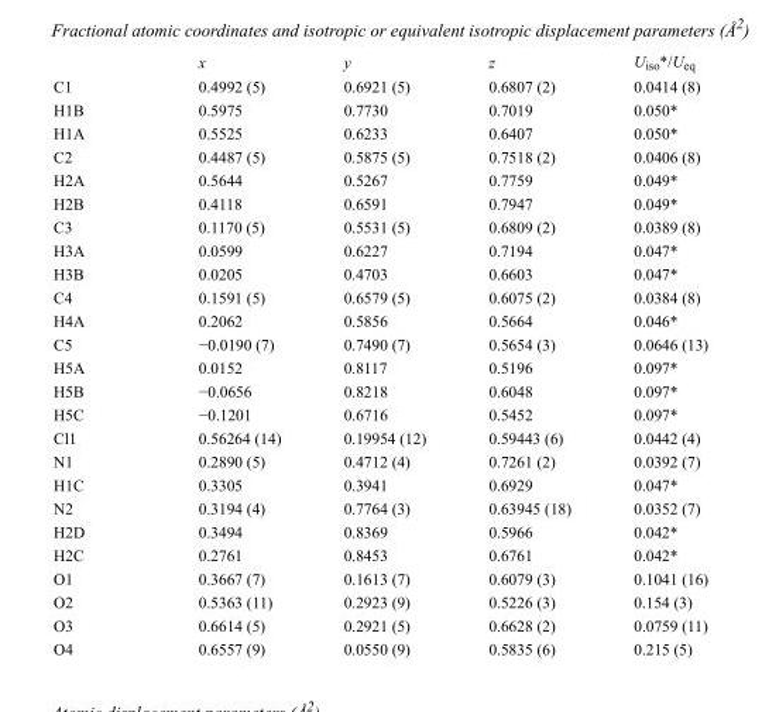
<table><thead><tr><td></td><td>x</td><td>y</td><td>z</td><td>U<sub>iso</sub>*/U<sub>eq</sub></td></tr></thead><tbody><tr><td>C1</td><td>0.4992 (5)</td><td>0.6921 (5)</td><td>0.6807 (2)</td><td>0.0414 (8)</td></tr><tr><td>H1B</td><td>0.5975</td><td>0.7730</td><td>0.7019</td><td>0.050*</td></tr><tr><td>H1A</td><td>0.5525</td><td>0.6233</td><td>0.6407</td><td>0.050*</td></tr><tr><td>C2</td><td>0.4487 (5)</td><td>0.5875 (5)</td><td>0.7518 (2)</td><td>0.0406 (8)</td></tr><tr><td>H2A</td><td>0.5644</td><td>0.5267</td><td>0.7759</td><td>0.049*</td></tr><tr><td>H2B</td><td>0.4118</td><td>0.6591</td><td>0.7947</td><td>0.049*</td></tr><tr><td>C3</td><td>0.1170 (5)</td><td>0.5531 (5)</td><td>0.6809 (2)</td><td>0.0389 (8)</td></tr><tr><td>H3A</td><td>0.0599</td><td>0.6227</td><td>0.7194</td><td>0.047*</td></tr><tr><td>H3B</td><td>0.0205</td><td>0.4703</td><td>0.6603</td><td>0.047*</td></tr><tr><td>C4</td><td>0.1591 (5)</td><td>0.6579 (5)</td><td>0.6075 (2)</td><td>0.0384 (8)</td></tr><tr><td>H4A</td><td>0.2062</td><td>0.5856</td><td>0.5664</td><td>0.046*</td></tr><tr><td>C5</td><td>−0.0190 (7)</td><td>0.7490 (7)</td><td>0.5654 (3)</td><td>0.0646 (13)</td></tr><tr><td>H5A</td><td>0.0152</td><td>0.8117</td><td>0.5196</td><td>0.097*</td></tr><tr><td>H5B</td><td>−0.0656</td><td>0.8218</td><td>0.6048</td><td>0.097*</td></tr><tr><td>H5C</td><td>−0.1201</td><td>0.6716</td><td>0.5452</td><td>0.097*</td></tr><tr><td>Cl1</td><td>0.56264 (14)</td><td>0.19954 (12)</td><td>0.59443 (6)</td><td>0.0442 (4)</td></tr><tr><td>N1</td><td>0.2890 (5)</td><td>0.4712 (4)</td><td>0.7261 (2)</td><td>0.0392 (7)</td></tr><tr><td>H1C</td><td>0.3305</td><td>0.3941</td><td>0.6929</td><td>0.047*</td></tr><tr><td>N2</td><td>0.3194 (4)</td><td>0.7764 (3)</td><td>0.63945 (18)</td><td>0.0352 (7)</td></tr><tr><td>H2D</td><td>0.3494</td><td>0.8369</td><td>0.5966</td><td>0.042*</td></tr><tr><td>H2C</td><td>0.2761</td><td>0.8453</td><td>0.6761</td><td>0.042*</td></tr><tr><td>O1</td><td>0.3667 (7)</td><td>0.1613 (7)</td><td>0.6079 (3)</td><td>0.1041 (16)</td></tr><tr><td>O2</td><td>0.5363 (11)</td><td>0.2923 (9)</td><td>0.5226 (3)</td><td>0.154 (3)</td></tr><tr><td>O3</td><td>0.6614 (5)</td><td>0.2921 (5)</td><td>0.6628 (2)</td><td>0.0759 (11)</td></tr><tr><td>O4</td><td>0.6557 (9)</td><td>0.0550 (9)</td><td>0.5835 (6)</td><td>0.215 (5)</td></tr></tbody></table>